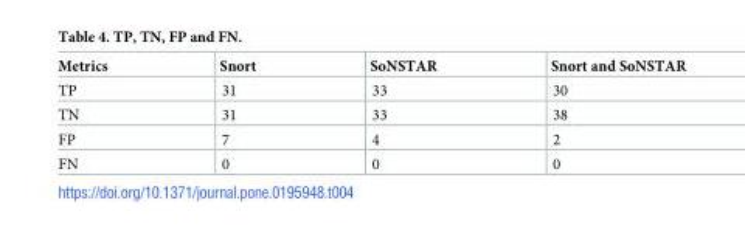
<table><thead><tr><td>Metrics</td><td>Snort</td><td>SoNSTAR</td><td>Snort and SoNSTAR</td></tr></thead><tbody><tr><td>TP</td><td>31</td><td>33</td><td>30</td></tr><tr><td>TN</td><td>31</td><td>33</td><td>38</td></tr><tr><td>FP</td><td>7</td><td>4</td><td>2</td></tr><tr><td>FN</td><td>0</td><td>0</td><td>0</td></tr></tbody></table>